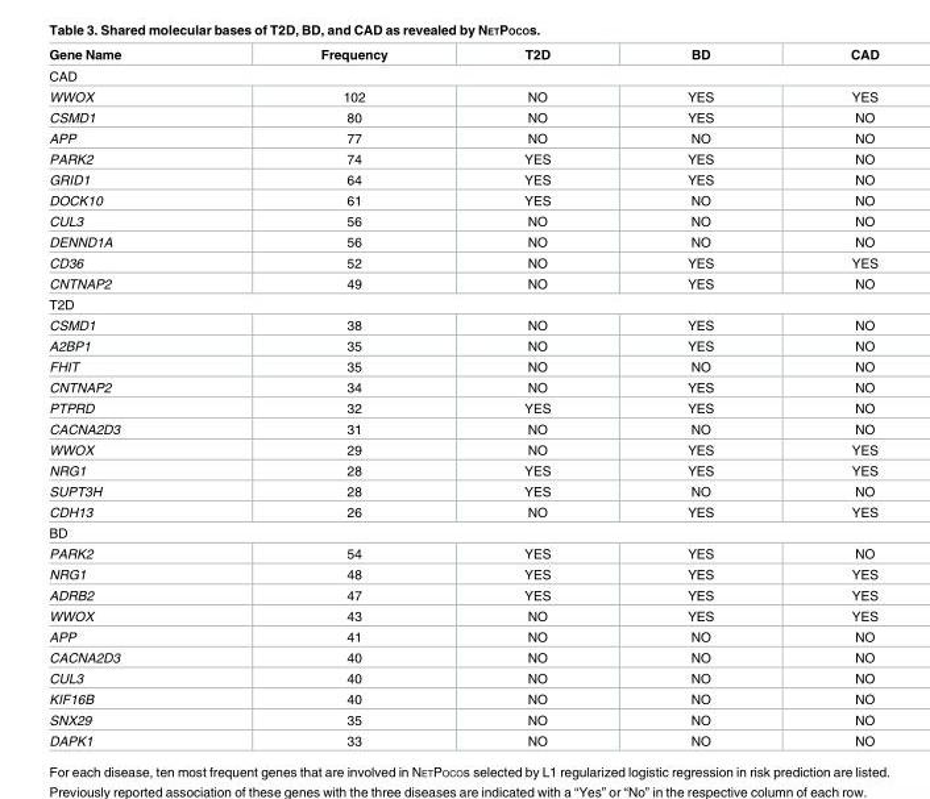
<table><thead><tr><td>Gene Name</td><td>Frequency</td><td>T2D</td><td>BD</td><td>CAD</td></tr></thead><tbody><tr><td colspan="5">CAD</td></tr><tr><td>WWOX</td><td>102</td><td>NO</td><td>YES</td><td>YES</td></tr><tr><td>CSMD1</td><td>80</td><td>NO</td><td>YES</td><td>NO</td></tr><tr><td>APP</td><td>77</td><td>NO</td><td>NO</td><td>NO</td></tr><tr><td>PARK2</td><td>74</td><td>YES</td><td>YES</td><td>NO</td></tr><tr><td>GRID1</td><td>64</td><td>YES</td><td>YES</td><td>NO</td></tr><tr><td>DOCK10</td><td>61</td><td>YES</td><td>NO</td><td>NO</td></tr><tr><td>CUL3</td><td>56</td><td>NO</td><td>NO</td><td>NO</td></tr><tr><td>DENND1A</td><td>56</td><td>NO</td><td>NO</td><td>NO</td></tr><tr><td>CD36</td><td>52</td><td>NO</td><td>YES</td><td>YES</td></tr><tr><td>CNTNAP2</td><td>49</td><td>NO</td><td>YES</td><td>NO</td></tr><tr><td colspan="5">T2D</td></tr><tr><td>CSMD1</td><td>38</td><td>NO</td><td>YES</td><td>NO</td></tr><tr><td>A2BP1</td><td>35</td><td>NO</td><td>YES</td><td>NO</td></tr><tr><td>FHIT</td><td>35</td><td>NO</td><td>NO</td><td>NO</td></tr><tr><td>CNTNAP2</td><td>34</td><td>NO</td><td>YES</td><td>NO</td></tr><tr><td>PTPRD</td><td>32</td><td>YES</td><td>YES</td><td>NO</td></tr><tr><td>CACNA2D3</td><td>31</td><td>NO</td><td>NO</td><td>NO</td></tr><tr><td>WWOX</td><td>29</td><td>NO</td><td>YES</td><td>YES</td></tr><tr><td>NRG1</td><td>28</td><td>YES</td><td>YES</td><td>YES</td></tr><tr><td>SUPT3H</td><td>28</td><td>YES</td><td>NO</td><td>NO</td></tr><tr><td>CDH13</td><td>26</td><td>NO</td><td>YES</td><td>YES</td></tr><tr><td colspan="5">BD</td></tr><tr><td>PARK2</td><td>54</td><td>YES</td><td>YES</td><td>NO</td></tr><tr><td>NRG1</td><td>48</td><td>YES</td><td>YES</td><td>YES</td></tr><tr><td>ADRB2</td><td>47</td><td>YES</td><td>YES</td><td>YES</td></tr><tr><td>WWOX</td><td>43</td><td>NO</td><td>YES</td><td>YES</td></tr><tr><td>APP</td><td>41</td><td>NO</td><td>NO</td><td>NO</td></tr><tr><td>CACNA2D3</td><td>40</td><td>NO</td><td>NO</td><td>NO</td></tr><tr><td>CUL3</td><td>40</td><td>NO</td><td>NO</td><td>NO</td></tr><tr><td>KIF16B</td><td>40</td><td>NO</td><td>NO</td><td>NO</td></tr><tr><td>SNX29</td><td>35</td><td>NO</td><td>NO</td><td>NO</td></tr><tr><td>DAPK1</td><td>33</td><td>NO</td><td>NO</td><td>NO</td></tr></tbody></table>